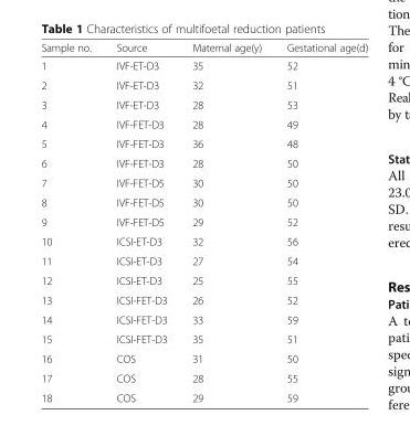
<table><thead><tr><td>Sample no.</td><td>Source</td><td>Maternal age(y)</td><td>Gestational age(d)</td></tr></thead><tbody><tr><td>1</td><td>IVF-ET-D3</td><td>35</td><td>52</td></tr><tr><td>2</td><td>IVF-ET-D3</td><td>32</td><td>51</td></tr><tr><td>3</td><td>IVF-ET-D3</td><td>28</td><td>53</td></tr><tr><td>4</td><td>IVF-FET-D3</td><td>28</td><td>49</td></tr><tr><td>5</td><td>IVF-FET-D3</td><td>36</td><td>48</td></tr><tr><td>6</td><td>IVF-FET-D3</td><td>28</td><td>50</td></tr><tr><td>7</td><td>IVF-FET-D5</td><td>30</td><td>50</td></tr><tr><td>8</td><td>IVF-FET-D5</td><td>30</td><td>50</td></tr><tr><td>9</td><td>IVF-FET-D5</td><td>29</td><td>52</td></tr><tr><td>10</td><td>ICSI-ET-D3</td><td>32</td><td>56</td></tr><tr><td>11</td><td>ICSI-ET-D3</td><td>27</td><td>54</td></tr><tr><td>12</td><td>ICSI-ET-D3</td><td>25</td><td>55</td></tr><tr><td>13</td><td>ICSI-FET-D3</td><td>26</td><td>52</td></tr><tr><td>14</td><td>ICSI-FET-D3</td><td>33</td><td>59</td></tr><tr><td>15</td><td>ICSI-FET-D3</td><td>35</td><td>51</td></tr><tr><td>16</td><td>COS</td><td>31</td><td>50</td></tr><tr><td>17</td><td>COS</td><td>28</td><td>55</td></tr><tr><td>18</td><td>COS</td><td>29</td><td>59</td></tr></tbody></table>